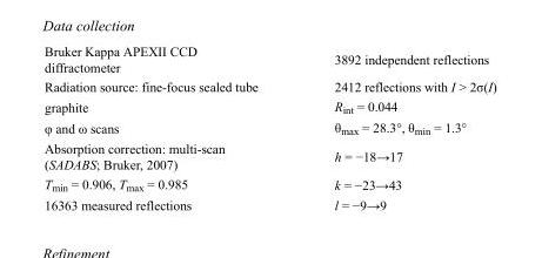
<table><tbody><tr><td>Bruker Kappa APEXII CCD diffractometer</td><td>3892 independent reflections</td></tr><tr><td>Radiation source: fine-focus sealed tube</td><td>2412 reflections with I &gt; 2σ(I)</td></tr><tr><td>graphite</td><td>R<sub>int</sub> = 0.044</td></tr><tr><td>φ and ω scans</td><td>θ<sub>max</sub> = 28.3°, θ<sub>min</sub> = 1.3°</td></tr><tr><td>Absorption correction: multi-scan (SADABS; Bruker, 2007)</td><td>h = −18→17</td></tr><tr><td>T<sub>min</sub> = 0.906, T<sub>max</sub> = 0.985</td><td>k = −23→43</td></tr><tr><td>16363 measured reflections</td><td>l = −9→9</td></tr></tbody></table>